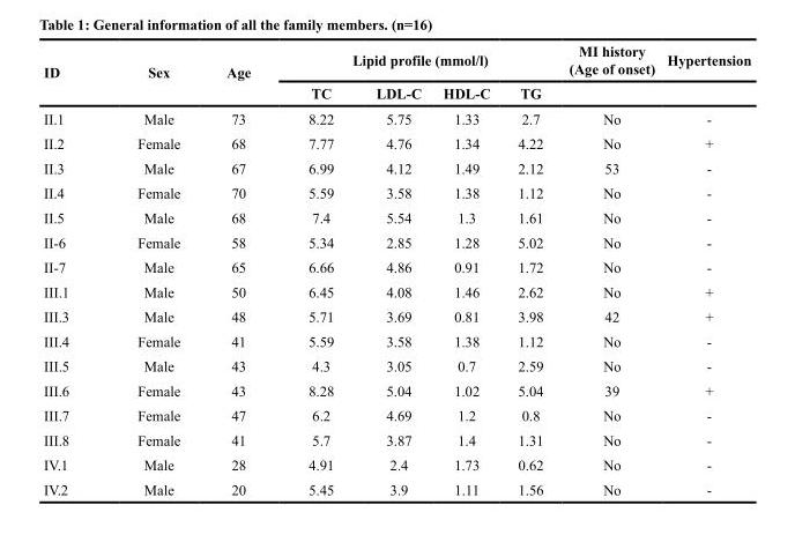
<table><thead><tr><td rowspan="2">ID</td><td rowspan="2">Sex</td><td rowspan="2">Age</td><td colspan="4">Lipid profile (mmol/l)</td><td rowspan="2">MI history (Age of onset)</td><td rowspan="2">Hypertension</td></tr><tr><td>TC</td><td>LDL-C</td><td>HDL-C</td><td>TG</td></tr></thead><tbody><tr><td>II.1</td><td>Male</td><td>73</td><td>8.22</td><td>5.75</td><td>1.33</td><td>2.7</td><td>No</td><td>-</td></tr><tr><td>II.2</td><td>Female</td><td>68</td><td>7.77</td><td>4.76</td><td>1.34</td><td>4.22</td><td>No</td><td>+</td></tr><tr><td>II.3</td><td>Male</td><td>67</td><td>6.99</td><td>4.12</td><td>1.49</td><td>2.12</td><td>53</td><td>-</td></tr><tr><td>II.4</td><td>Female</td><td>70</td><td>5.59</td><td>3.58</td><td>1.38</td><td>1.12</td><td>No</td><td>-</td></tr><tr><td>II.5</td><td>Male</td><td>68</td><td>7.4</td><td>5.54</td><td>1.3</td><td>1.61</td><td>No</td><td>-</td></tr><tr><td>II-6</td><td>Female</td><td>58</td><td>5.34</td><td>2.85</td><td>1.28</td><td>5.02</td><td>No</td><td>-</td></tr><tr><td>II-7</td><td>Male</td><td>65</td><td>6.66</td><td>4.86</td><td>0.91</td><td>1.72</td><td>No</td><td>-</td></tr><tr><td>III.1</td><td>Male</td><td>50</td><td>6.45</td><td>4.08</td><td>1.46</td><td>2.62</td><td>No</td><td>+</td></tr><tr><td>III.3</td><td>Male</td><td>48</td><td>5.71</td><td>3.69</td><td>0.81</td><td>3.98</td><td>42</td><td>+</td></tr><tr><td>III.4</td><td>Female</td><td>41</td><td>5.59</td><td>3.58</td><td>1.38</td><td>1.12</td><td>No</td><td>-</td></tr><tr><td>III.5</td><td>Male</td><td>43</td><td>4.3</td><td>3.05</td><td>0.7</td><td>2.59</td><td>No</td><td>-</td></tr><tr><td>III.6</td><td>Female</td><td>43</td><td>8.28</td><td>5.04</td><td>1.02</td><td>5.04</td><td>39</td><td>+</td></tr><tr><td>III.7</td><td>Female</td><td>47</td><td>6.2</td><td>4.69</td><td>1.2</td><td>0.8</td><td>No</td><td>-</td></tr><tr><td>III.8</td><td>Female</td><td>41</td><td>5.7</td><td>3.87</td><td>1.4</td><td>1.31</td><td>No</td><td>-</td></tr><tr><td>IV.1</td><td>Male</td><td>28</td><td>4.91</td><td>2.4</td><td>1.73</td><td>0.62</td><td>No</td><td>-</td></tr><tr><td>IV.2</td><td>Male</td><td>20</td><td>5.45</td><td>3.9</td><td>1.11</td><td>1.56</td><td>No</td><td>-</td></tr></tbody></table>